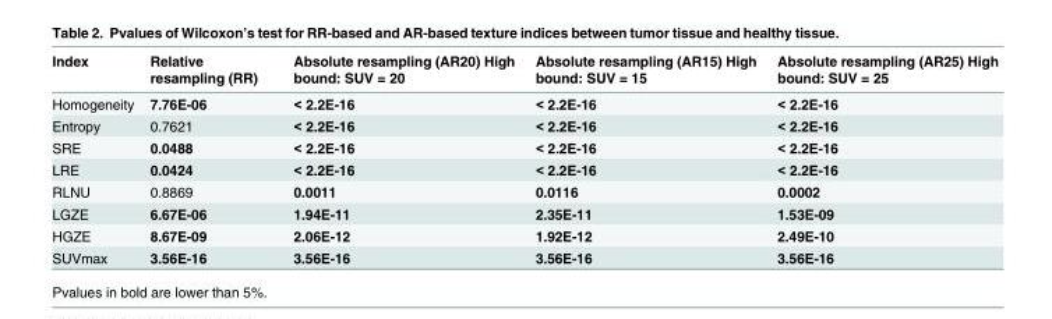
<table><thead><tr><td>Index</td><td>Relative resampling (RR)</td><td>Absolute resampling (AR20) High bound: SUV = 20</td><td>Absolute resampling (AR15) High bound: SUV = 15</td><td>Absolute resampling (AR25) High bound: SUV = 25</td></tr></thead><tbody><tr><td>Homogeneity</td><td>7.76E-06</td><td>&lt; 2.2E-16</td><td>&lt; 2.2E-16</td><td>&lt; 2.2E-16</td></tr><tr><td>Entropy</td><td>0.7621</td><td>&lt; 2.2E-16</td><td>&lt; 2.2E-16</td><td>&lt; 2.2E-16</td></tr><tr><td>SRE</td><td>0.0488</td><td>&lt; 2.2E-16</td><td>&lt; 2.2E-16</td><td>&lt; 2.2E-16</td></tr><tr><td>LRE</td><td>0.0424</td><td>&lt; 2.2E-16</td><td>&lt; 2.2E-16</td><td>&lt; 2.2E-16</td></tr><tr><td>RLNU</td><td>0.8869</td><td>0.0011</td><td>0.0116</td><td>0.0002</td></tr><tr><td>LGZE</td><td>6.67E-06</td><td>1.94E-11</td><td>2.35E-11</td><td>1.53E-09</td></tr><tr><td>HGZE</td><td>8.67E-09</td><td>2.06E-12</td><td>1.92E-12</td><td>2.49E-10</td></tr><tr><td>SUVmax</td><td>3.56E-16</td><td>3.56E-16</td><td>3.56E-16</td><td>3.56E-16</td></tr></tbody></table>